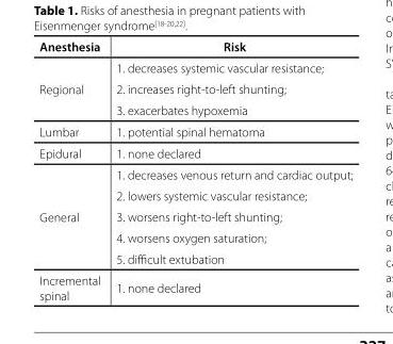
<table><thead><tr><td>Anesthesia</td><td>Risk</td></tr></thead><tbody><tr><td>Regional</td><td>1. decreases systemic vascular resistance; 2. increases right-to-left shunting; 3. exacerbates hypoxemia</td></tr><tr><td>Lumbar</td><td>1. potential spinal hematoma</td></tr><tr><td>Epidural</td><td>1. none declared</td></tr><tr><td>General</td><td>1. decreases venous return and cardiac output; 2. lowers systemic vascular resistance; 3. worsens right-to-left shunting; 4. worsens oxygen saturation; 5. difficult extubation</td></tr><tr><td>Incremental spinal</td><td>1. none declared</td></tr></tbody></table>